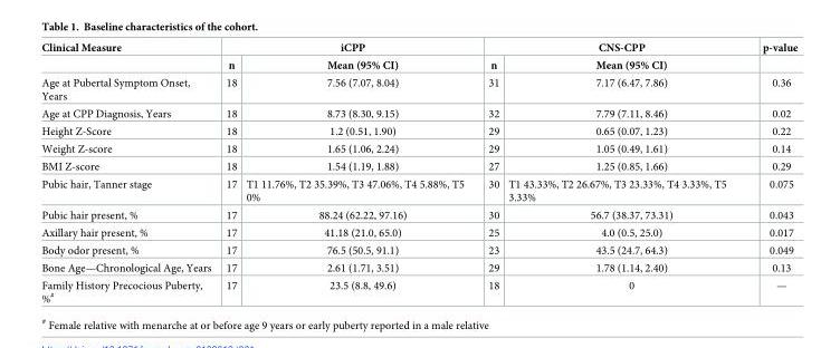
<table><thead><tr><td rowspan="2">Clinical Measure</td><td colspan="2">iCPP</td><td colspan="2">CNS-CPP</td><td rowspan="2">p-value</td></tr><tr><td>n</td><td>Mean (95% CI)</td><td>n</td><td>Mean (95% CI)</td></tr></thead><tbody><tr><td>Age at Pubertal Symptom Onset, Years</td><td>18</td><td>7.56 (7.07, 8.04)</td><td>31</td><td>7.17 (6.47, 7.86)</td><td>0.36</td></tr><tr><td>Age at CPP Diagnosis, Years</td><td>18</td><td>8.73 (8.30, 9.15)</td><td>32</td><td>7.79 (7.11, 8.46)</td><td>0.02</td></tr><tr><td>Height Z-Score</td><td>18</td><td>1.2 (0.51, 1.90)</td><td>29</td><td>0.65 (0.07, 1.23)</td><td>0.22</td></tr><tr><td>Weight Z-score</td><td>18</td><td>1.65 (1.06, 2.24)</td><td>29</td><td>1.05 (0.49, 1.61)</td><td>0.14</td></tr><tr><td>BMI Z-score</td><td>18</td><td>1.54 (1.19, 1.88)</td><td>27</td><td>1.25 (0.85, 1.66)</td><td>0.29</td></tr><tr><td>Pubic hair, Tanner stage</td><td>17</td><td>T1 11.76%, T2 35.39%, T3 47.06%, T4 5.88%, T5 0%</td><td>30</td><td>T1 43.33%, T2 26.67%, T3 23.33%, T4 3.33%, T5 3.33%</td><td>0.075</td></tr><tr><td>Pubic hair present, %</td><td>17</td><td>88.24 (62.22, 97.16)</td><td>30</td><td>56.7 (38.37, 73.31)</td><td>0.043</td></tr><tr><td>Axillary hair present, %</td><td>17</td><td>41.18 (21.0, 65.0)</td><td>25</td><td>4.0 (0.5, 25.0)</td><td>0.017</td></tr><tr><td>Body odor present, %</td><td>17</td><td>76.5 (50.5, 91.1)</td><td>23</td><td>43.5 (24.7, 64.3)</td><td>0.049</td></tr><tr><td>Bone Age—Chronological Age, Years</td><td>17</td><td>2.61 (1.71, 3.51)</td><td>29</td><td>1.78 (1.14, 2.40)</td><td>0.13</td></tr><tr><td>Family History Precocious Puberty, %<sup>#</sup></td><td>17</td><td>23.5 (8.8, 49.6)</td><td>18</td><td>0</td><td>—</td></tr></tbody></table>